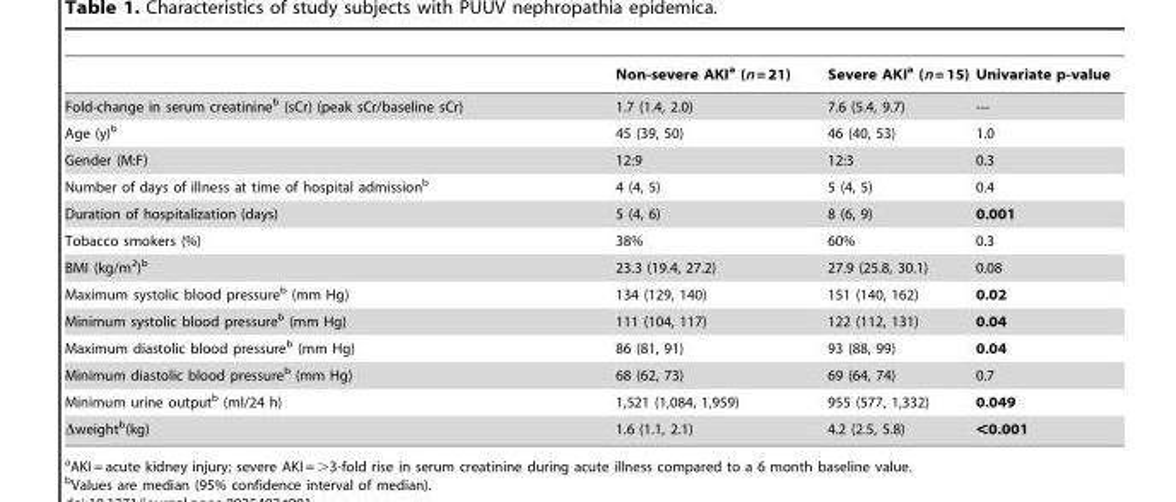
<table><thead><tr><td></td><td>Non-severe AKI<sup>a</sup> (n = 21)</td><td>Severe AKI<sup>a</sup> (n = 15)</td><td>Univariate p-value</td></tr></thead><tbody><tr><td>Fold-change in serum creatinine<sup>b</sup> (sCr) (peak sCr/baseline sCr)</td><td>1.7 (1.4, 2.0)</td><td>7.6 (5.4, 9.7)</td><td>---</td></tr><tr><td>Age (y)<sup>b</sup></td><td>45 (39, 50)</td><td>46 (40, 53)</td><td>1.0</td></tr><tr><td>Gender (M:F)</td><td>12:9</td><td>12:3</td><td>0.3</td></tr><tr><td>Number of days of illness at time of hospital admission<sup>b</sup></td><td>4 (4, 5)</td><td>5 (4, 5)</td><td>0.4</td></tr><tr><td>Duration of hospitalization (days)</td><td>5 (4, 6)</td><td>8 (6, 9)</td><td>0.001</td></tr><tr><td>Tobacco smokers (%)</td><td>38%</td><td>60%</td><td>0.3</td></tr><tr><td>BMI (kg/m<sup>2</sup>)<sup>b</sup></td><td>23.3 (19.4, 27.2)</td><td>27.9 (25.8, 30.1)</td><td>0.08</td></tr><tr><td>Maximum systolic blood pressure<sup>b</sup> (mm Hg)</td><td>134 (129, 140)</td><td>151 (140, 162)</td><td>0.02</td></tr><tr><td>Minimum systolic blood pressure<sup>b</sup> (mm Hg)</td><td>111 (104, 117)</td><td>122 (112, 131)</td><td>0.04</td></tr><tr><td>Maximum diastolic blood pressure<sup>b</sup> (mm Hg)</td><td>86 (81, 91)</td><td>93 (88, 99)</td><td>0.04</td></tr><tr><td>Minimum diastolic blood pressure<sup>b</sup> (mm Hg)</td><td>68 (62, 73)</td><td>69 (64, 74)</td><td>0.7</td></tr><tr><td>Minimum urine output<sup>b</sup> (ml/24 h)</td><td>1,521 (1,084, 1,959)</td><td>955 (577, 1,332)</td><td>0.049</td></tr><tr><td>Δweight<sup>b</sup>(kg)</td><td>1.6 (1.1, 2.1)</td><td>4.2 (2.5, 5.8)</td><td>&lt;0.001</td></tr></tbody></table>